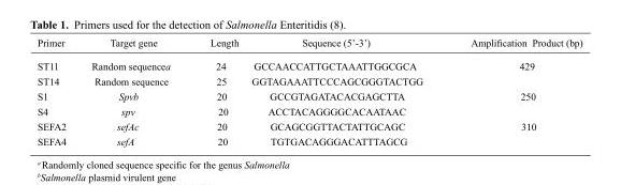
<table><thead><tr><td>Primer</td><td>Target gene</td><td>Length</td><td>Sequence (5’-3’)</td><td>Amplification Product (bp)</td></tr></thead><tbody><tr><td>ST11</td><td>Random sequencea</td><td>24</td><td>GCCAACCATTGCTAAATTGGCGCA</td><td>429</td></tr><tr><td>ST14</td><td>Random sequence</td><td>25</td><td>GGTAGAAATTCCCAGCGGGTACTGG</td><td></td></tr><tr><td>S1</td><td>Spvb</td><td>20</td><td>GCCGTAGATACACGAGCTTA</td><td>250</td></tr><tr><td>S4</td><td>spv</td><td>20</td><td>ACCTACAGGGGCACAATAAC</td><td></td></tr><tr><td>SEFA2</td><td>sefAc</td><td>20</td><td>GCAGCGGTTACTATTGCAGC</td><td>310</td></tr><tr><td>SEFA4</td><td>sefA</td><td>20</td><td>TGTGACAGGGACATTTAGCG</td><td></td></tr></tbody></table>